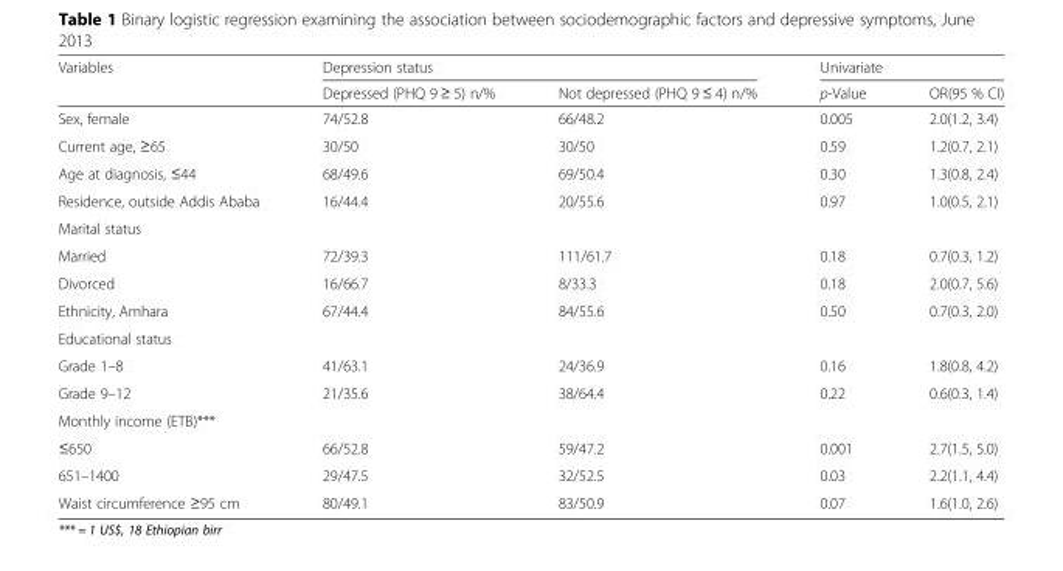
<table><thead><tr><td rowspan="2">Variables</td><td colspan="2">Depression status</td><td colspan="2">Univariate</td></tr><tr><td>Depressed (PHQ 9 ≥ 5) n/%</td><td>Not depressed (PHQ 9 ≤ 4) n/%</td><td>p-Value</td><td>OR(95 % CI)</td></tr></thead><tbody><tr><td>Sex, female</td><td>74/52.8</td><td>66/48.2</td><td>0.005</td><td>2.0(1.2, 3.4)</td></tr><tr><td>Current age, ≥65</td><td>30/50</td><td>30/50</td><td>0.59</td><td>1.2(0.7, 2.1)</td></tr><tr><td>Age at diagnosis, ≤44</td><td>68/49.6</td><td>69/50.4</td><td>0.30</td><td>1.3(0.8, 2.4)</td></tr><tr><td>Residence, outside Addis Ababa</td><td>16/44.4</td><td>20/55.6</td><td>0.97</td><td>1.0(0.5, 2.1)</td></tr><tr><td colspan="5">Marital status</td></tr><tr><td>Married</td><td>72/39.3</td><td>111/61.7</td><td>0.18</td><td>0.7(0.3, 1.2)</td></tr><tr><td>Divorced</td><td>16/66.7</td><td>8/33.3</td><td>0.18</td><td>2.0(0.7, 5.6)</td></tr><tr><td>Ethnicity, Amhara</td><td>67/44.4</td><td>84/55.6</td><td>0.50</td><td>0.7(0.3, 2.0)</td></tr><tr><td colspan="5">Educational status</td></tr><tr><td>Grade 1–8</td><td>41/63.1</td><td>24/36.9</td><td>0.16</td><td>1.8(0.8, 4.2)</td></tr><tr><td>Grade 9–12</td><td>21/35.6</td><td>38/64.4</td><td>0.22</td><td>0.6(0.3, 1.4)</td></tr><tr><td colspan="5">Monthly income (ETB)***</td></tr><tr><td>≤650</td><td>66/52.8</td><td>59/47.2</td><td>0.001</td><td>2.7(1.5, 5.0)</td></tr><tr><td>651–1400</td><td>29/47.5</td><td>32/52.5</td><td>0.03</td><td>2.2(1.1, 4.4)</td></tr><tr><td>Waist circumference ≥95 cm</td><td>80/49.1</td><td>83/50.9</td><td>0.07</td><td>1.6(1.0, 2.6)</td></tr></tbody></table>